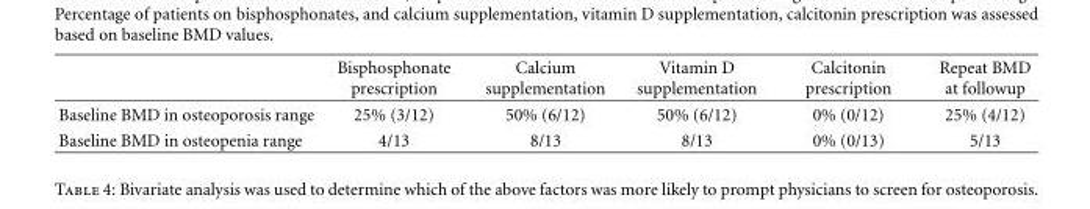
<table><thead><tr><td></td><td>Bisphosphonate prescription</td><td>Calcium supplementation</td><td>Vitamin D supplementation</td><td>Calcitonin prescription</td><td>Repeat BMD at followup</td></tr></thead><tbody><tr><td>Baseline BMD in osteoporosis range</td><td>25% (3/12)</td><td>50% (6/12)</td><td>50% (6/12)</td><td>0% (0/12)</td><td>25% (4/12)</td></tr><tr><td>Baseline BMD in osteopenia range</td><td>4/13</td><td>8/13</td><td>8/13</td><td>0% (0/13)</td><td>5/13</td></tr></tbody></table>